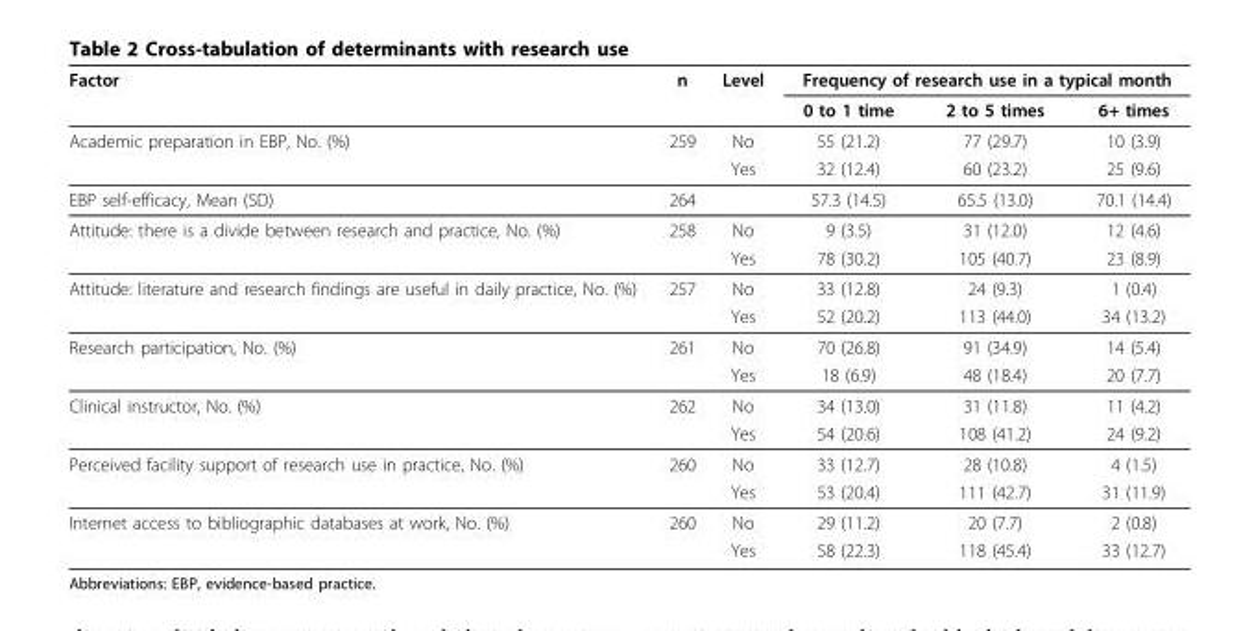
<table><thead><tr><td rowspan="2">Factor</td><td rowspan="2">n</td><td rowspan="2">Level</td><td colspan="3">Frequency of research use in a typical month</td></tr><tr><td>0 to 1 time</td><td>2 to 5 times</td><td>6+ times</td></tr></thead><tbody><tr><td rowspan="2">Academic preparation in EBP, No. (%)</td><td>259</td><td>No</td><td>55 (21.2)</td><td>77 (29.7)</td><td>10 (3.9)</td></tr><tr><td></td><td>Yes</td><td>32 (12.4)</td><td>60 (23.2)</td><td>25 (9.6)</td></tr><tr><td>EBP self-efficacy, Mean (SD)</td><td>264</td><td></td><td>57.3 (14.5)</td><td>65.5 (13.0)</td><td>70.1 (14.4)</td></tr><tr><td rowspan="2">Attitude: there is a divide between research and practice, No. (%)</td><td>258</td><td>No</td><td>9 (3.5)</td><td>31 (12.0)</td><td>12 (4.6)</td></tr><tr><td></td><td>Yes</td><td>78 (30.2)</td><td>105 (40.7)</td><td>23 (8.9)</td></tr><tr><td rowspan="2">Attitude: literature and research findings are useful in daily practice, No. (%)</td><td>257</td><td>No</td><td>33 (12.8)</td><td>24 (9.3)</td><td>1 (0.4)</td></tr><tr><td></td><td>Yes</td><td>52 (20.2)</td><td>113 (44.0)</td><td>34 (13.2)</td></tr><tr><td rowspan="2">Research participation, No. (%)</td><td>261</td><td>No</td><td>70 (26.8)</td><td>91 (34.9)</td><td>14 (5.4)</td></tr><tr><td></td><td>Yes</td><td>18 (6.9)</td><td>48 (18.4)</td><td>20 (7.7)</td></tr><tr><td rowspan="2">Clinical instructor, No. (%)</td><td>262</td><td>No</td><td>34 (13.0)</td><td>31 (11.8)</td><td>11 (4.2)</td></tr><tr><td></td><td>Yes</td><td>54 (20.6)</td><td>108 (41.2)</td><td>24 (9.2)</td></tr><tr><td rowspan="2">Perceived facility support of research use in practice, No. (%)</td><td>260</td><td>No</td><td>33 (12.7)</td><td>28 (10.8)</td><td>4 (1.5)</td></tr><tr><td></td><td>Yes</td><td>53 (20.4)</td><td>111 (42.7)</td><td>31 (11.9)</td></tr><tr><td rowspan="2">Internet access to bibliographic databases at work, No. (%)</td><td>260</td><td>No</td><td>29 (11.2)</td><td>20 (7.7)</td><td>2 (0.8)</td></tr><tr><td></td><td>Yes</td><td>58 (22.3)</td><td>118 (45.4)</td><td>33 (12.7)</td></tr></tbody></table>